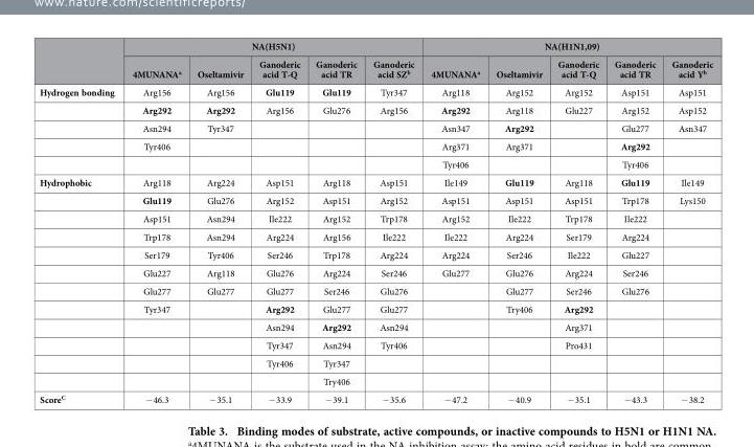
<table><thead><tr><td rowspan="2"></td><td colspan="5">NA(H5N1)</td><td colspan="5">NA(H1N1,09)</td></tr><tr><td>4MUNANA<sup>a</sup></td><td>Oseltamivir</td><td>Ganoderic acid T-Q</td><td>Ganoderic acid TR</td><td>Ganoderic acid SZ<sup>b</sup></td><td>4MUNANA<sup>a</sup></td><td>Oseltamivir</td><td>Ganoderic acid T-Q</td><td>Ganoderic acid TR</td><td>Ganoderic acid Y<sup>b</sup></td></tr></thead><tbody><tr><td rowspan="5">Hydrogen bonding</td><td>Arg156</td><td>Arg156</td><td>Glu119</td><td>Glu119</td><td>Tyr347</td><td>Arg118</td><td>Arg152</td><td>Arg152</td><td>Asp151</td><td>Asp151</td></tr><tr><td>Arg292</td><td>Arg292</td><td>Arg156</td><td>Glu276</td><td>Arg156</td><td>Arg292</td><td>Arg118</td><td>Glu227</td><td>Arg152</td><td>Asp152</td></tr><tr><td>Asn294</td><td>Tyr347</td><td></td><td></td><td></td><td>Asn347</td><td>Arg292</td><td></td><td>Glu277</td><td>Asn347</td></tr><tr><td>Tyr406</td><td></td><td></td><td></td><td></td><td>Arg371</td><td>Arg371</td><td></td><td>Arg292</td><td></td></tr><tr><td></td><td></td><td></td><td></td><td></td><td>Tyr406</td><td></td><td></td><td>Tyr406</td><td></td></tr><tr><td rowspan="12">Hydrophobic</td><td>Arg118</td><td>Arg224</td><td>Asp151</td><td>Arg118</td><td>Asp151</td><td>Ile149</td><td>Glu119</td><td>Arg118</td><td>Glu119</td><td>Ile149</td></tr><tr><td>Glu119</td><td>Glu276</td><td>Arg152</td><td>Asp151</td><td>Arg152</td><td>Asp151</td><td>Asp151</td><td>Asp151</td><td>Trp178</td><td>Lys150</td></tr><tr><td>Asp151</td><td>Asn294</td><td>Ile222</td><td>Arg152</td><td>Trp178</td><td>Arg152</td><td>Ile222</td><td>Trp178</td><td>Ile222</td><td></td></tr><tr><td>Trp178</td><td>Asn294</td><td>Arg224</td><td>Arg156</td><td>Ile222</td><td>Ile222</td><td>Arg224</td><td>Ser179</td><td>Arg224</td><td></td></tr><tr><td>Ser179</td><td>Tyr406</td><td>Ser246</td><td>Trp178</td><td>Arg224</td><td>Arg224</td><td>Ser246</td><td>Ile222</td><td>Glu227</td><td></td></tr><tr><td>Glu227</td><td>Arg118</td><td>Glu276</td><td>Arg224</td><td>Ser246</td><td>Glu277</td><td>Glu276</td><td>Arg224</td><td>Ser246</td><td></td></tr><tr><td>Glu277</td><td>Glu277</td><td>Glu277</td><td>Ser246</td><td>Glu276</td><td></td><td>Glu277</td><td>Ser246</td><td>Glu276</td><td></td></tr><tr><td>Tyr347</td><td></td><td>Arg292</td><td>Glu277</td><td>Glu277</td><td></td><td>Try406</td><td>Arg292</td><td></td><td></td></tr><tr><td></td><td></td><td>Asn294</td><td>Arg292</td><td>Asn294</td><td></td><td></td><td>Arg371</td><td></td><td></td></tr><tr><td></td><td></td><td>Tyr347</td><td>Asn294</td><td>Tyr406</td><td></td><td></td><td>Pro431</td><td></td><td></td></tr><tr><td></td><td></td><td>Tyr406</td><td>Tyr347</td><td></td><td></td><td></td><td></td><td></td><td></td></tr><tr><td></td><td></td><td></td><td>Try406</td><td></td><td></td><td></td><td></td><td></td><td></td></tr><tr><td>Score<sup>C</sup></td><td>− 46.3</td><td>− 35.1</td><td>− 33.9</td><td>− 39.1</td><td>− 35.6</td><td>− 47.2</td><td>− 40.9</td><td>− 35.1</td><td>− 43.3</td><td>− 38.2</td></tr></tbody></table>